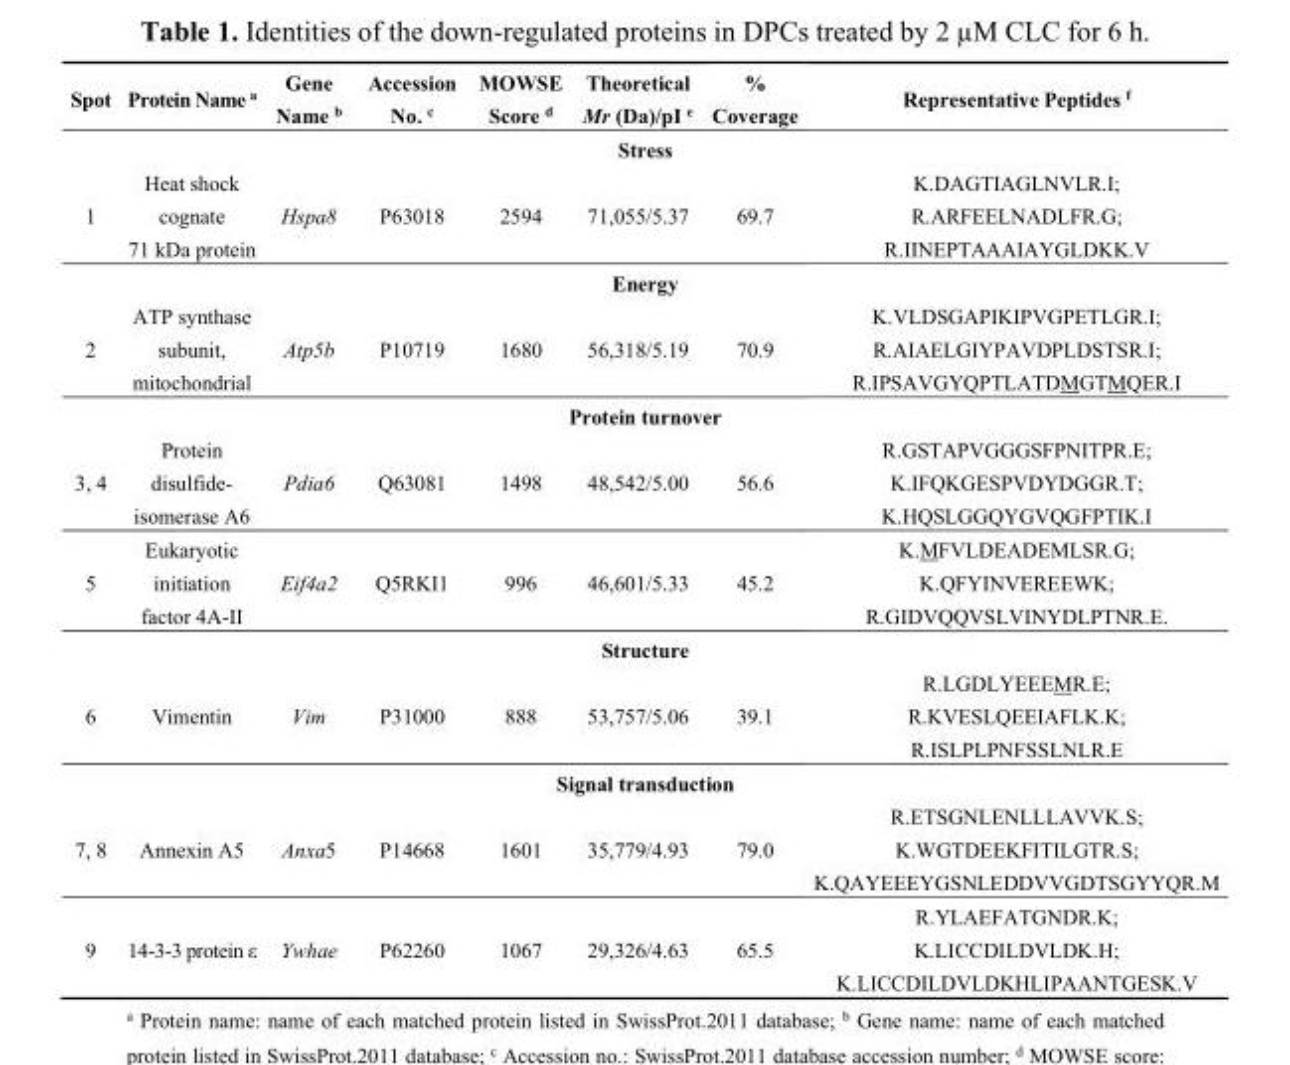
<table><thead><tr><td>Spot</td><td>Protein Name <sup>a</sup></td><td>Gene Name <sup>b</sup></td><td>Accession No. <sup>c</sup></td><td>MOWSE Score <sup>d</sup></td><td>Theoretical Mr (Da)/pI <sup>e</sup></td><td>% Coverage</td><td>Representative Peptides <sup>f</sup></td></tr></thead><tbody><tr><td colspan="8">Stress</td></tr><tr><td>1</td><td>Heat shock cognate 71 kDa protein</td><td>Hspa8</td><td>P63018</td><td>2594</td><td>71,055/5.37</td><td>69.7</td><td>K.DAGTIAGLNVLR.I; R.ARFEELNADLFR.G; R.IINEPTAAAIAYGLDKK.V</td></tr><tr><td colspan="8">Energy</td></tr><tr><td>2</td><td>ATP synthase subunit, mitochondrial</td><td>Atp5b</td><td>P10719</td><td>1680</td><td>56,318/5.19</td><td>70.9</td><td>K.VLDSGAPIKIPVGPETLGR.I; R.AIAELGIYPAVDPLDSTSR.I; R.IPSAVGYQPTLATDMGTMQER.I</td></tr><tr><td colspan="8">Protein turnover</td></tr><tr><td>3, 4</td><td>Protein disulfide- isomerase A6</td><td>Pdia6</td><td>Q63081</td><td>1498</td><td>48,542/5.00</td><td>56.6</td><td>R.GSTAPVGGGSFPNITPR.E; K.IFQKGESPVDYDGGR.T; K.HQSLGGQYGVQGFPTIK.I</td></tr><tr><td>5</td><td>Eukaryotic initiation factor 4A-II</td><td>Eif4a2</td><td>Q5RKI1</td><td>996</td><td>46,601/5.33</td><td>45.2</td><td>K.MFVLDEADEMLSR.G; K.QFYINVEREEWK; R.GIDVQQVSLVINYDLPTNR.E.</td></tr><tr><td colspan="8">Structure</td></tr><tr><td>6</td><td>Vimentin</td><td>Vim</td><td>P31000</td><td>888</td><td>53,757/5.06</td><td>39.1</td><td>R.LGDLYEEEMR.E; R.KVESLQEEIAFLK.K; R.ISLPLPNFSSLNLR.E</td></tr><tr><td colspan="8">Signal transduction</td></tr><tr><td>7, 8</td><td>Annexin A5</td><td>Anxa5</td><td>P14668</td><td>1601</td><td>35,779/4.93</td><td>79.0</td><td>R.ETSGNLENLLLAVVK.S; K.WGTDEEKFITILGTR.S; K.QAYEEEYGSNLEDDVVGDTSGYYQR.M</td></tr><tr><td>9</td><td>14-3-3 protein ε</td><td>Ywhae</td><td>P62260</td><td>1067</td><td>29,326/4.63</td><td>65.5</td><td>R.YLAEFATGNDR.K; K.LICCDILDVLDK.H; K.LICCDILDVLDKHLIPAANTGESK.V</td></tr></tbody></table>